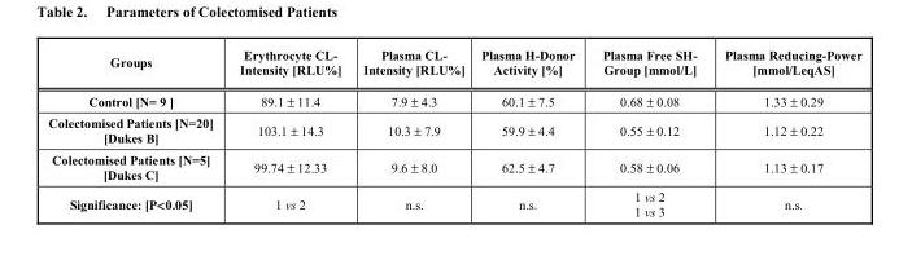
<table><thead><tr><td>Groups</td><td>Erythrocyte CL- Intensity [RLU%]</td><td>Plasma CL- Intensity [RLU%]</td><td>Plasma H-Donor Activity [%]</td><td>Plasma Free SH- Group [mmol/L]</td><td>Plasma Reducing-Power [mmol/LeqAS]</td></tr></thead><tbody><tr><td>Control [N= 9 ]</td><td>89.1 ± 11.4</td><td>7.9 ± 4.3</td><td>60.1 ± 7.5</td><td>0.68 ± 0.08</td><td>1.33 ± 0.29</td></tr><tr><td>Colectomised Patients [N=20] [Dukes B]</td><td>103.1 ± 14.3</td><td>10.3 ± 7.9</td><td>59.9 ± 4.4</td><td>0.55 ± 0.12</td><td>1.12 ± 0.22</td></tr><tr><td>Colectomised Patients [N=5] [Dukes C]</td><td>99.74 ± 12.33</td><td>9.6 ± 8.0</td><td>62.5 ± 4.7</td><td>0.58 ± 0.06</td><td>1.13 ± 0.17</td></tr><tr><td>Significance: [P&lt;0.05]</td><td>1 vs 2</td><td>n.s.</td><td>n.s.</td><td>1 vs 2 1 vs 3</td><td>n.s.</td></tr></tbody></table>